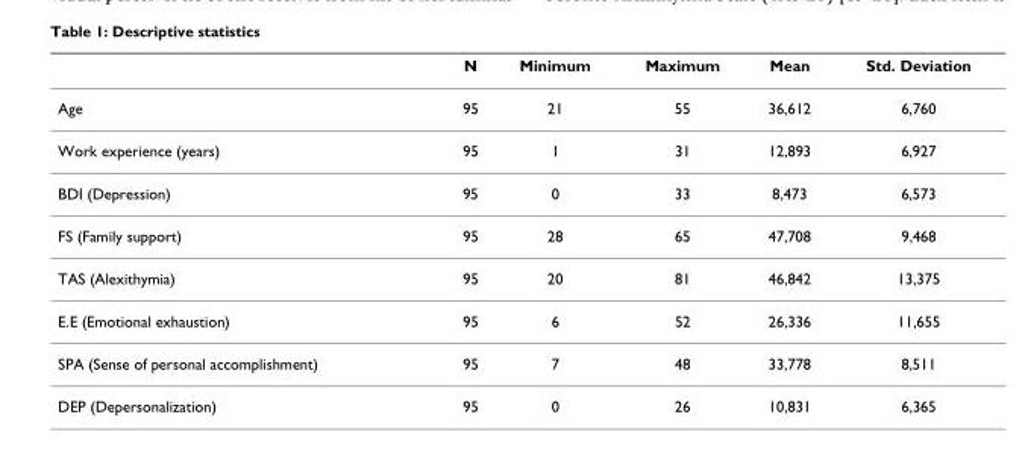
<table><thead><tr><td></td><td>N</td><td>Minimum</td><td>Maximum</td><td>Mean</td><td>Std. Deviation</td></tr></thead><tbody><tr><td>Age</td><td>95</td><td>21</td><td>55</td><td>36,612</td><td>6,760</td></tr><tr><td>Work experience (years)</td><td>95</td><td>1</td><td>31</td><td>12,893</td><td>6,927</td></tr><tr><td>BDI (Depression)</td><td>95</td><td>0</td><td>33</td><td>8,473</td><td>6,573</td></tr><tr><td>FS (Family support)</td><td>95</td><td>28</td><td>65</td><td>47,708</td><td>9,468</td></tr><tr><td>TAS (Alexithymia)</td><td>95</td><td>20</td><td>81</td><td>46,842</td><td>13,375</td></tr><tr><td>E.E (Emotional exhaustion)</td><td>95</td><td>6</td><td>52</td><td>26,336</td><td>11,655</td></tr><tr><td>SPA (Sense of personal accomplishment)</td><td>95</td><td>7</td><td>48</td><td>33,778</td><td>8,511</td></tr><tr><td>DEP (Depersonalization)</td><td>95</td><td>0</td><td>26</td><td>10,831</td><td>6,365</td></tr></tbody></table>